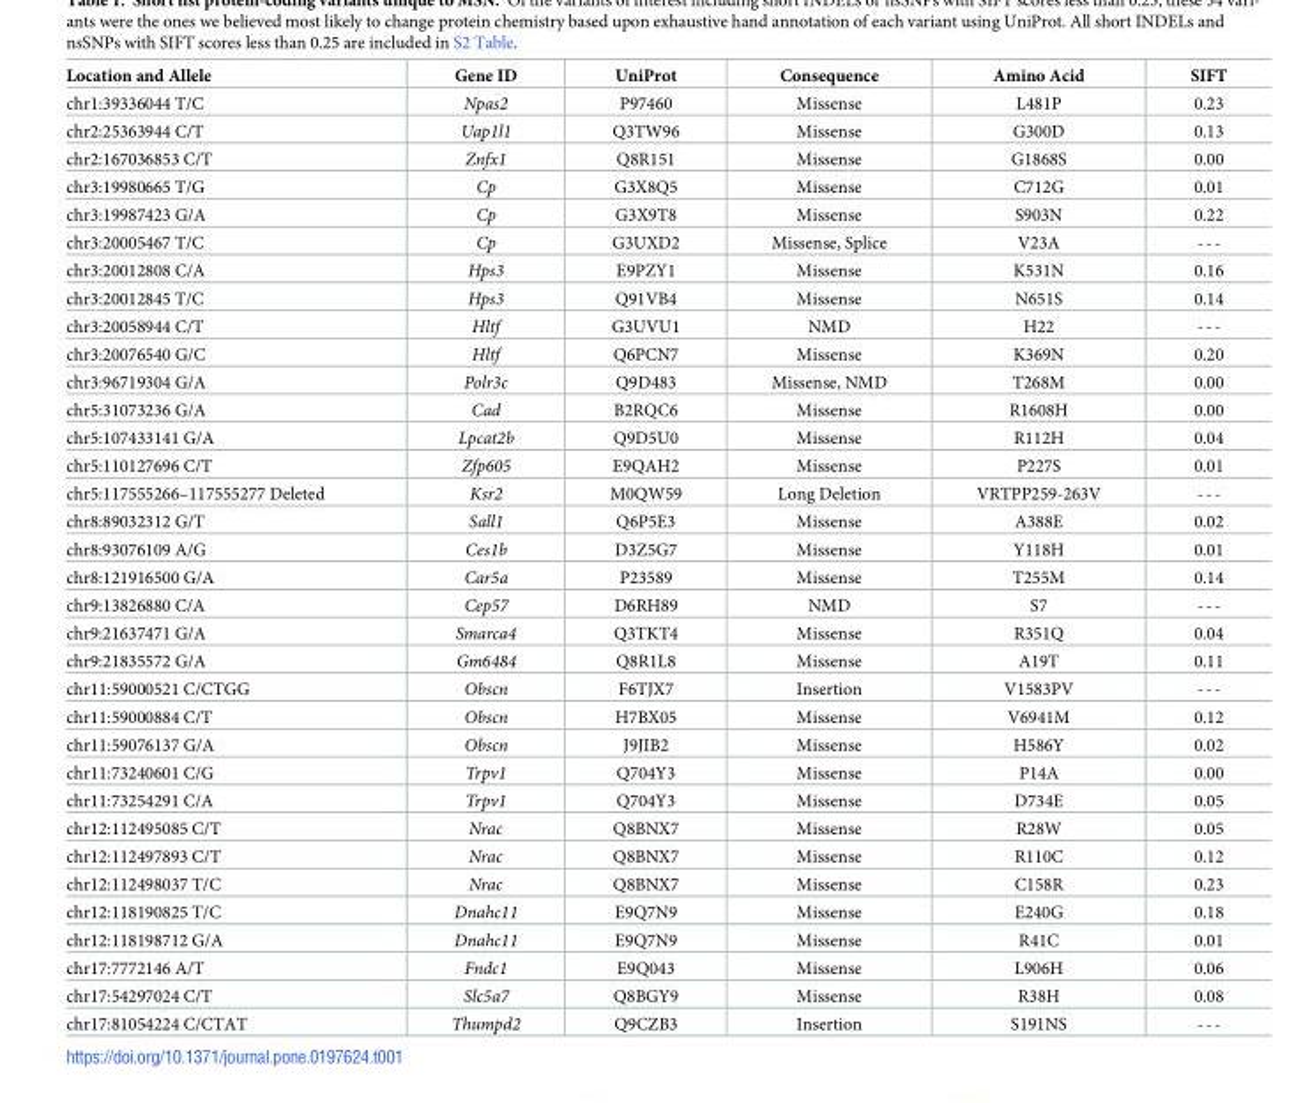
<table><thead><tr><td>Location and Allele</td><td>Gene ID</td><td>UniProt</td><td>Consequence</td><td>Amino Acid</td><td>SIFT</td></tr></thead><tbody><tr><td>chr1:39336044 T/C</td><td>Npas2</td><td>P97460</td><td>Missense</td><td>L481P</td><td>0.23</td></tr><tr><td>chr2:25363944 C/T</td><td>Uap1l1</td><td>Q3TW96</td><td>Missense</td><td>G300D</td><td>0.13</td></tr><tr><td>chr2:167036853 C/T</td><td>Znfx1</td><td>Q8R151</td><td>Missense</td><td>G1868S</td><td>0.00</td></tr><tr><td>chr3:19980665 T/G</td><td>Cp</td><td>G3X8Q5</td><td>Missense</td><td>C712G</td><td>0.01</td></tr><tr><td>chr3:19987423 G/A</td><td>Cp</td><td>G3X9T8</td><td>Missense</td><td>S903N</td><td>0.22</td></tr><tr><td>chr3:20005467 T/C</td><td>Cp</td><td>G3UXD2</td><td>Missense, Splice</td><td>V23A</td><td>---</td></tr><tr><td>chr3:20012808 C/A</td><td>Hps3</td><td>E9PZY1</td><td>Missense</td><td>K531N</td><td>0.16</td></tr><tr><td>chr3:20012845 T/C</td><td>Hps3</td><td>Q91VB4</td><td>Missense</td><td>N651S</td><td>0.14</td></tr><tr><td>chr3:20058944 C/T</td><td>Hltf</td><td>G3UVU1</td><td>NMD</td><td>H22</td><td>---</td></tr><tr><td>chr3:20076540 G/C</td><td>Hltf</td><td>Q6PCN7</td><td>Missense</td><td>K369N</td><td>0.20</td></tr><tr><td>chr3:96719304 G/A</td><td>Polr3c</td><td>Q9D483</td><td>Missense, NMD</td><td>T268M</td><td>0.00</td></tr><tr><td>chr5:31073236 G/A</td><td>Cad</td><td>B2RQC6</td><td>Missense</td><td>R1608H</td><td>0.00</td></tr><tr><td>chr5:107433141 G/A</td><td>Lpcat2b</td><td>Q9D5U0</td><td>Missense</td><td>R112H</td><td>0.04</td></tr><tr><td>chr5:110127696 C/T</td><td>Zfp605</td><td>E9QAH2</td><td>Missense</td><td>P227S</td><td>0.01</td></tr><tr><td>chr5:117555266–117555277 Deleted</td><td>Ksr2</td><td>M0QW59</td><td>Long Deletion</td><td>VRTPP259-263V</td><td>---</td></tr><tr><td>chr8:89032312 G/T</td><td>Sall1</td><td>Q6P5E3</td><td>Missense</td><td>A388E</td><td>0.02</td></tr><tr><td>chr8:93076109 A/G</td><td>Ces1b</td><td>D3Z5G7</td><td>Missense</td><td>Y118H</td><td>0.01</td></tr><tr><td>chr8:121916500 G/A</td><td>Car5a</td><td>P23589</td><td>Missense</td><td>T255M</td><td>0.14</td></tr><tr><td>chr9:13826880 C/A</td><td>Cep57</td><td>D6RH89</td><td>NMD</td><td>S7</td><td>---</td></tr><tr><td>chr9:21637471 G/A</td><td>Smarca4</td><td>Q3TKT4</td><td>Missense</td><td>R351Q</td><td>0.04</td></tr><tr><td>chr9:21835572 G/A</td><td>Gm6484</td><td>Q8R1L8</td><td>Missense</td><td>A19T</td><td>0.11</td></tr><tr><td>chr11:59000521 C/CTGG</td><td>Obscn</td><td>F6TJX7</td><td>Insertion</td><td>V1583PV</td><td>---</td></tr><tr><td>chr11:59000884 C/T</td><td>Obscn</td><td>H7BX05</td><td>Missense</td><td>V6941M</td><td>0.12</td></tr><tr><td>chr11:59076137 G/A</td><td>Obscn</td><td>J9JIB2</td><td>Missense</td><td>H586Y</td><td>0.02</td></tr><tr><td>chr11:73240601 C/G</td><td>Trpv1</td><td>Q704Y3</td><td>Missense</td><td>P14A</td><td>0.00</td></tr><tr><td>chr11:73254291 C/A</td><td>Trpv1</td><td>Q704Y3</td><td>Missense</td><td>D734E</td><td>0.05</td></tr><tr><td>chr12:112495085 C/T</td><td>Nrac</td><td>Q8BNX7</td><td>Missense</td><td>R28W</td><td>0.05</td></tr><tr><td>chr12:112497893 C/T</td><td>Nrac</td><td>Q8BNX7</td><td>Missense</td><td>R110C</td><td>0.12</td></tr><tr><td>chr12:112498037 T/C</td><td>Nrac</td><td>Q8BNX7</td><td>Missense</td><td>C158R</td><td>0.23</td></tr><tr><td>chr12:118190825 T/C</td><td>Dnahc11</td><td>E9Q7N9</td><td>Missense</td><td>E240G</td><td>0.18</td></tr><tr><td>chr12:118198712 G/A</td><td>Dnahc11</td><td>E9Q7N9</td><td>Missense</td><td>R41C</td><td>0.01</td></tr><tr><td>chr17:7772146 A/T</td><td>Fndc1</td><td>E9Q043</td><td>Missense</td><td>L906H</td><td>0.06</td></tr><tr><td>chr17:54297024 C/T</td><td>Slc5a7</td><td>Q8BGY9</td><td>Missense</td><td>R38H</td><td>0.08</td></tr><tr><td>chr17:81054224 C/CTAT</td><td>Thumpd2</td><td>Q9CZB3</td><td>Insertion</td><td>S191NS</td><td>---</td></tr></tbody></table>